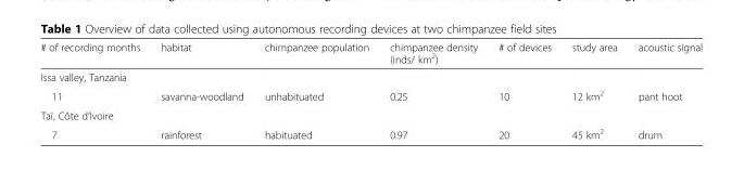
<table><thead><tr><td># of recording months</td><td>habitat</td><td>chimpanzee population</td><td>chimpanzee density (inds/ km<sup>2</sup>)</td><td># of devices</td><td>study area</td><td>acoustic signal</td></tr></thead><tbody><tr><td colspan="7">Issa valley, Tanzania</td></tr><tr><td>11</td><td>savanna-woodland</td><td>unhabituated</td><td>0.25</td><td>10</td><td>12 km<sup>2</sup></td><td>pant hoot</td></tr><tr><td colspan="7">Taï, Côte d’Ivoire</td></tr><tr><td>7</td><td>rainforest</td><td>habituated</td><td>0.97</td><td>20</td><td>45 km<sup>2</sup></td><td>drum</td></tr></tbody></table>